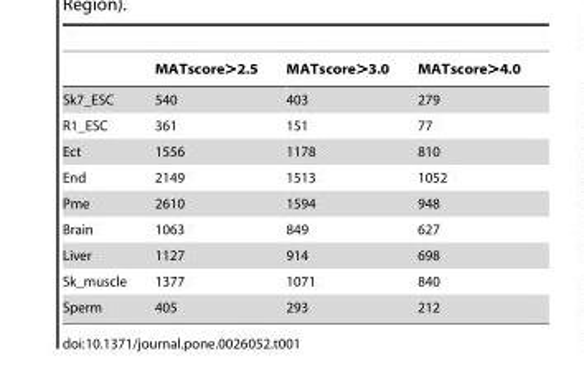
<table><thead><tr><td></td><td>MATscore&gt;2.5</td><td>MATscore&gt;3.0</td><td>MATscore&gt;4.0</td></tr></thead><tbody><tr><td>Sk7_ESC</td><td>540</td><td>403</td><td>279</td></tr><tr><td>R1_ESC</td><td>361</td><td>151</td><td>77</td></tr><tr><td>Ect</td><td>1556</td><td>1178</td><td>810</td></tr><tr><td>End</td><td>2149</td><td>1513</td><td>1052</td></tr><tr><td>Pme</td><td>2610</td><td>1594</td><td>948</td></tr><tr><td>Brain</td><td>1063</td><td>849</td><td>627</td></tr><tr><td>Liver</td><td>1127</td><td>914</td><td>698</td></tr><tr><td>Sk_muscle</td><td>1377</td><td>1071</td><td>840</td></tr><tr><td>Sperm</td><td>405</td><td>293</td><td>212</td></tr></tbody></table>